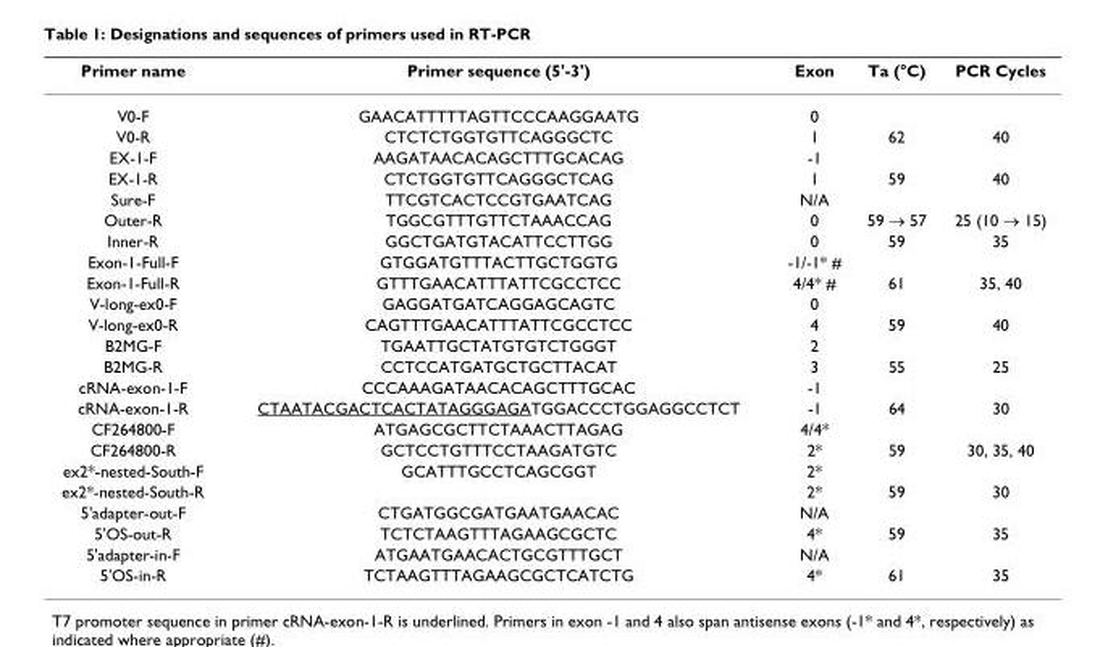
<table><thead><tr><td>Primer name</td><td>Primer sequence (5&#x27;-3&#x27;)</td><td>Exon</td><td>Ta (°C)</td><td>PCR Cycles</td></tr></thead><tbody><tr><td>V0-F</td><td>GAACATTTTTAGTTCCCAAGGAATG</td><td>0</td><td></td><td></td></tr><tr><td>V0-R</td><td>CTCTCTGGTGTTCAGGGCTC</td><td>1</td><td>62</td><td>40</td></tr><tr><td>EX-1-F</td><td>AAGATAACACAGCTTTGCACAG</td><td>-1</td><td></td><td></td></tr><tr><td>EX-1-R</td><td>CTCTGGTGTTCAGGGCTCAG</td><td>1</td><td>59</td><td>40</td></tr><tr><td>Sure-F</td><td>TTCGTCACTCCGTGAATCAG</td><td>N/A</td><td></td><td></td></tr><tr><td>Outer-R</td><td>TGGCGTTTGTTCTAAACCAG</td><td>0</td><td>59 → 57</td><td>25 (10 → 15)</td></tr><tr><td>Inner-R</td><td>GGCTGATGTACATTCCTTGG</td><td>0</td><td>59</td><td>35</td></tr><tr><td>Exon-1-Full-F</td><td>GTGGATGTTTACTTGCTGGTG</td><td>-1/-1* #</td><td></td><td></td></tr><tr><td>Exon-1-Full-R</td><td>GTTTGAACATTTATTCGCCTCC</td><td>4/4* #</td><td>61</td><td>35, 40</td></tr><tr><td>V-long-ex0-F</td><td>GAGGATGATCAGGAGCAGTC</td><td>0</td><td></td><td></td></tr><tr><td>V-long-ex0-R</td><td>CAGTTTGAACATTTATTCGCCTCC</td><td>4</td><td>59</td><td>40</td></tr><tr><td>B2MG-F</td><td>TGAATTGCTATGTGTCTGGGT</td><td>2</td><td></td><td></td></tr><tr><td>B2MG-R</td><td>CCTCCATGATGCTGCTTACAT</td><td>3</td><td>55</td><td>25</td></tr><tr><td>cRNA-exon-1-F</td><td>CCCAAAGATAACACAGCTTTGCAC</td><td>-1</td><td></td><td></td></tr><tr><td>cRNA-exon-1-R</td><td>CTAATACGACTCACTATAGGGAGATGGACCCTGGAGGCCTCT</td><td>-1</td><td>64</td><td>30</td></tr><tr><td>CF264800-F</td><td>ATGAGCGCTTCTAAACTTAGAG</td><td>4/4*</td><td></td><td></td></tr><tr><td>CF264800-R</td><td>GCTCCTGTTTCCTAAGATGTC</td><td>2*</td><td>59</td><td>30, 35, 40</td></tr><tr><td>ex2*-nested-South-F</td><td>GCATTTGCCTCAGCGGT</td><td>2*</td><td></td><td></td></tr><tr><td>ex2*-nested-South-R</td><td></td><td>2*</td><td>59</td><td>30</td></tr><tr><td>5&#x27;adapter-out-F</td><td>CTGATGGCGATGAATGAACAC</td><td>N/A</td><td></td><td></td></tr><tr><td>5&#x27;OS-out-R</td><td>TCTCTAAGTTTAGAAGCGCTC</td><td>4*</td><td>59</td><td>35</td></tr><tr><td>5&#x27;adapter-in-F</td><td>ATGAATGAACACTGCGTTTGCT</td><td>N/A</td><td></td><td></td></tr><tr><td>5&#x27;OS-in-R</td><td>TCTAAGTTTAGAAGCGCTCATCTG</td><td>4*</td><td>61</td><td>35</td></tr></tbody></table>